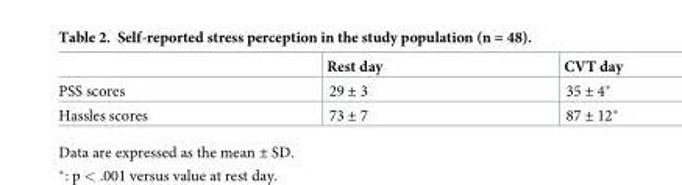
<table><thead><tr><td></td><td>Rest day</td><td>CVT day</td></tr></thead><tbody><tr><td>PSS scores</td><td>29 ± 3</td><td>35 ± 4*</td></tr><tr><td>Hassles scores</td><td>73 ± 7</td><td>87 ± 12*</td></tr></tbody></table>